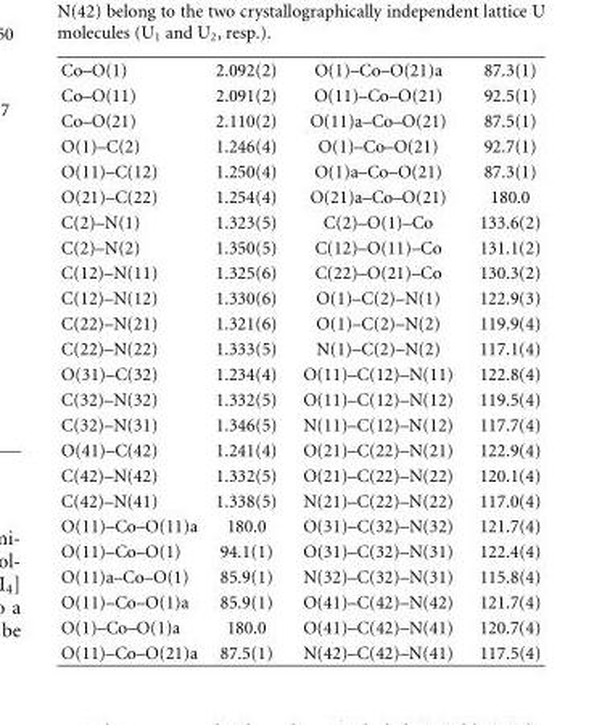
<table><tbody><tr><td>Co–O(1)</td><td>2.092(2)</td><td>O(1)–Co–O(21)a</td><td>87.3(1)</td></tr><tr><td>Co–O(11)</td><td>2.091(2)</td><td>O(11)–Co–O(21)</td><td>92.5(1)</td></tr><tr><td>Co–O(21)</td><td>2.110(2)</td><td>O(11)a–Co–O(21)</td><td>87.5(1)</td></tr><tr><td>O(1)–C(2)</td><td>1.246(4)</td><td>O(1)–Co–O(21)</td><td>92.7(1)</td></tr><tr><td>O(11)–C(12)</td><td>1.250(4)</td><td>O(1)a–Co–O(21)</td><td>87.3(1)</td></tr><tr><td>O(21)–C(22)</td><td>1.254(4)</td><td>O(21)a–Co–O(21)</td><td>180.0</td></tr><tr><td>C(2)–N(1)</td><td>1.323(5)</td><td>C(2)–O(1)–Co</td><td>133.6(2)</td></tr><tr><td>C(2)–N(2)</td><td>1.350(5)</td><td>C(12)–O(11)–Co</td><td>131.1(2)</td></tr><tr><td>C(12)–N(11)</td><td>1.325(6)</td><td>C(22)–O(21)–Co</td><td>130.3(2)</td></tr><tr><td>C(12)–N(12)</td><td>1.330(6)</td><td>O(1)–C(2)–N(1)</td><td>122.9(3)</td></tr><tr><td>C(22)–N(21)</td><td>1.321(6)</td><td>O(1)–C(2)–N(2)</td><td>119.9(4)</td></tr><tr><td>C(22)–N(22)</td><td>1.333(5)</td><td>N(1)–C(2)–N(2)</td><td>117.1(4)</td></tr><tr><td>O(31)–C(32)</td><td>1.234(4)</td><td>O(11)–C(12)–N(11)</td><td>122.8(4)</td></tr><tr><td>C(32)–N(32)</td><td>1.332(5)</td><td>O(11)–C(12)–N(12)</td><td>119.5(4)</td></tr><tr><td>C(32)–N(31)</td><td>1.346(5)</td><td>N(11)–C(12)–N(12)</td><td>117.7(4)</td></tr><tr><td>O(41)–C(42)</td><td>1.241(4)</td><td>O(21)–C(22)–N(21)</td><td>122.9(4)</td></tr><tr><td>C(42)–N(42)</td><td>1.332(5)</td><td>O(21)–C(22)–N(22)</td><td>120.1(4)</td></tr><tr><td>C(42)–N(41)</td><td>1.338(5)</td><td>N(21)–C(22)–N(22)</td><td>117.0(4)</td></tr><tr><td>O(11)–Co–O(11)a</td><td>180.0</td><td>O(31)–C(32)–N(32)</td><td>121.7(4)</td></tr><tr><td>O(11)–Co–O(1)</td><td>94.1(1)</td><td>O(31)–C(32)–N(31)</td><td>122.4(4)</td></tr><tr><td>O(11)a–Co–O(1)</td><td>85.9(1)</td><td>N(32)–C(32)–N(31)</td><td>115.8(4)</td></tr><tr><td>O(11)–Co–O(1)a</td><td>85.9(1)</td><td>O(41)–C(42)–N(42)</td><td>121.7(4)</td></tr><tr><td>O(1)–Co–O(1)a</td><td>180.0</td><td>O(41)–C(42)–N(41)</td><td>120.7(4)</td></tr><tr><td>O(11)–Co–O(21)a</td><td>87.5(1)</td><td>N(42)–C(42)–N(41)</td><td>117.5(4)</td></tr></tbody></table>